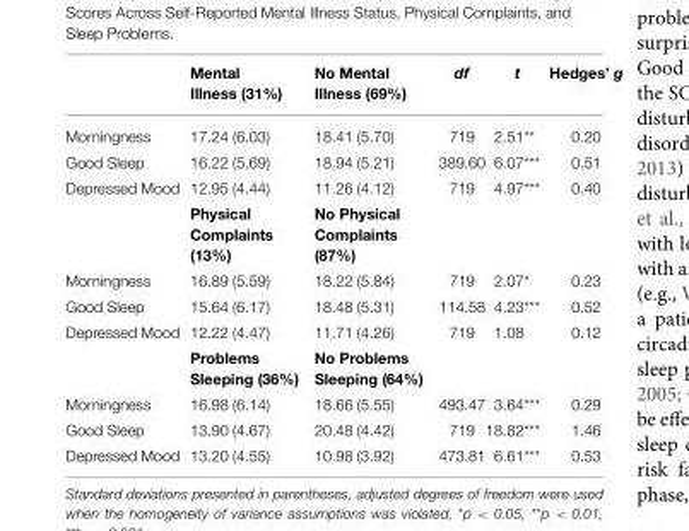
<table><thead><tr><td></td><td>Mental Illness (31%)</td><td>No Mental Illness (69%)</td><td>df</td><td>t</td><td>Hedges’ g</td></tr></thead><tbody><tr><td>Morningness</td><td>17.24 (6.03)</td><td>18.41 (5.70)</td><td>719</td><td>2.51**</td><td>0.20</td></tr><tr><td>Good Sleep</td><td>16.22 (5.69)</td><td>18.94 (5.21)</td><td>389.60</td><td>6.07***</td><td>0.51</td></tr><tr><td rowspan="2">Depressed Mood</td><td>12.95 (4.44)</td><td>11.26 (4.12)</td><td>719</td><td>4.97***</td><td>0.40</td></tr><tr><td>Physical Complaints (13%)</td><td>No Physical Complaints (87%)</td><td></td><td></td><td></td></tr><tr><td>Morningness</td><td>16.89 (5.59)</td><td>18.22 (5.84)</td><td>719</td><td>2.07*</td><td>0.23</td></tr><tr><td>Good Sleep</td><td>15.64 (6.17)</td><td>18.48 (5.31)</td><td>114.58</td><td>4.23***</td><td>0.52</td></tr><tr><td rowspan="2">Depressed Mood</td><td>12.22 (4.47)</td><td>11.71 (4.26)</td><td>719</td><td>1.08</td><td>0.12</td></tr><tr><td>Problems Sleeping (36%)</td><td>No Problems Sleeping (64%)</td><td></td><td></td><td></td></tr><tr><td>Morningness</td><td>16.98 (6.14)</td><td>18.66 (5.55)</td><td>493.47</td><td>3.64***</td><td>0.29</td></tr><tr><td>Good Sleep</td><td>13.90 (4.67)</td><td>20.48 (4.42)</td><td>719</td><td>18.82***</td><td>1.46</td></tr><tr><td>Depressed Mood</td><td>13.20 (4.55)</td><td>10.98 (3.92)</td><td>473.81</td><td>6.61***</td><td>0.53</td></tr></tbody></table>